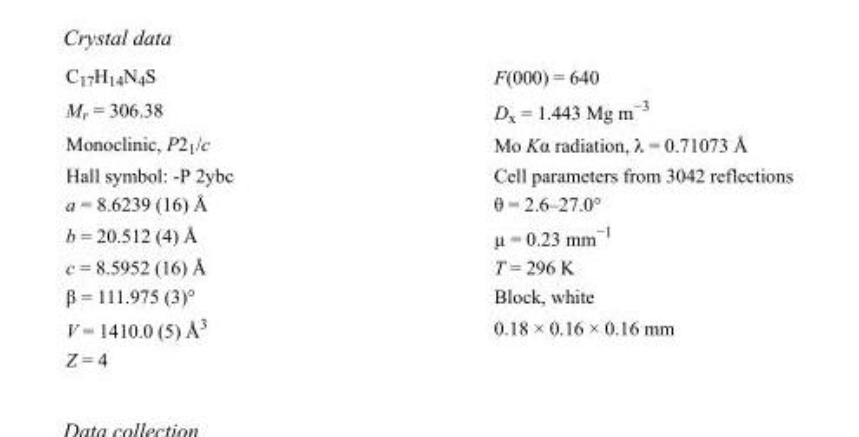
<table><tbody><tr><td>C<sub>17</sub>H<sub>14</sub>N<sub>4</sub>S</td><td>F(000) = 640</td></tr><tr><td>M<sub>r</sub> = 306.38</td><td>D<sub>x</sub> = 1.443 Mg m<sup>−3</sup></td></tr><tr><td>Monoclinic, P2<sub>1</sub>/c</td><td>Mo Kα radiation, λ = 0.71073 Å</td></tr><tr><td>Hall symbol: -P 2ybc</td><td>Cell parameters from 3042 reflections</td></tr><tr><td>a = 8.6239 (16) Å</td><td>θ = 2.6–27.0°</td></tr><tr><td>b = 20.512 (4) Å</td><td>µ = 0.23 mm<sup>−1</sup></td></tr><tr><td>c = 8.5952 (16) Å</td><td>T = 296 K</td></tr><tr><td>β = 111.975 (3)°</td><td>Block, white</td></tr><tr><td>V = 1410.0 (5) Å<sup>3</sup></td><td>0.18 × 0.16 × 0.16 mm</td></tr><tr><td>Z = 4</td><td></td></tr></tbody></table>